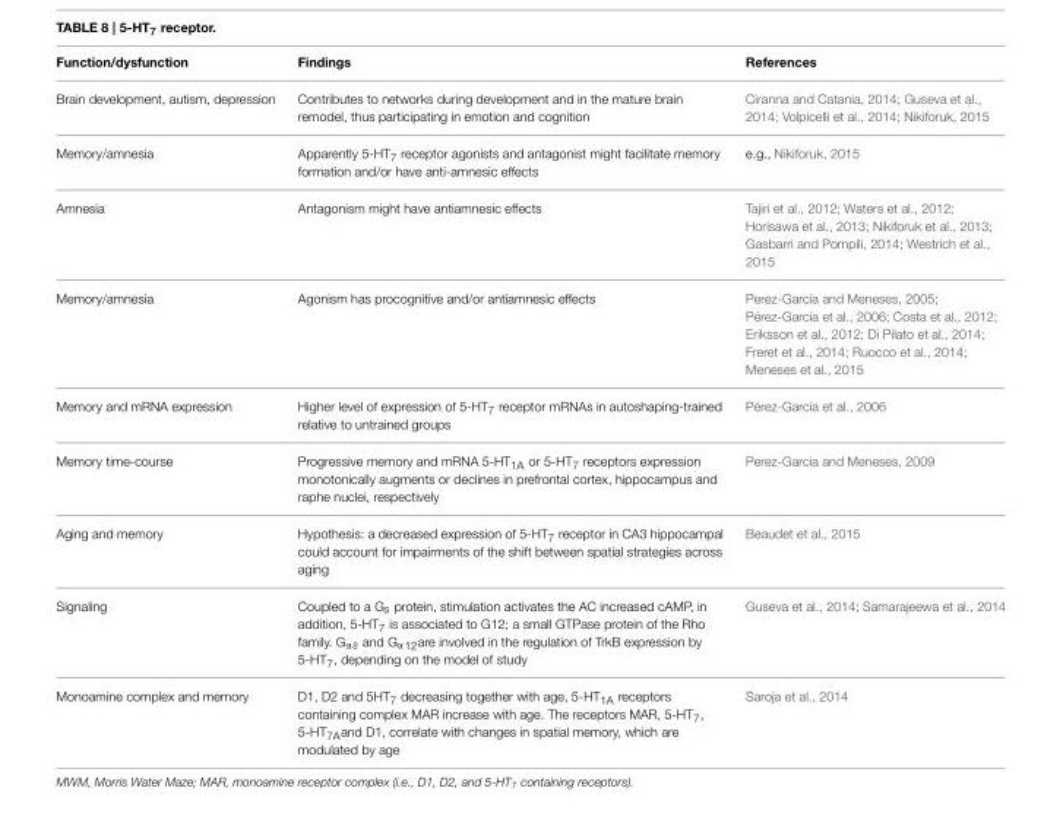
<table><thead><tr><td>Function/dysfunction</td><td>Findings</td><td>References</td></tr></thead><tbody><tr><td>Brain development, autism, depression</td><td>Contributes to networks during development and in the mature brain remodel, thus participating in emotion and cognition</td><td>Ciranna and Catania, 2014; Guseva et al., 2014; Volpicelli et al., 2014; Nikiforuk, 2015</td></tr><tr><td>Memory/amnesia</td><td>Apparently 5-HT<sub>7</sub> receptor agonists and antagonist might facilitate memory formation and/or have anti-amnesic effects</td><td>e.g., Nikiforuk, 2015</td></tr><tr><td>Amnesia</td><td>Antagonism might have antiamnesic effects</td><td>Tajiri et al., 2012; Waters et al., 2012; Horisawa et al., 2013; Nikiforuk et al., 2013; Gasbarri and Pompili, 2014; Westrich et al., 2015</td></tr><tr><td>Memory/amnesia</td><td>Agonism has procognitive and/or antiamnesic effects</td><td>Perez-García and Meneses, 2005; Pérez-García et al., 2006; Costa et al., 2012; Eriksson et al., 2012; Di Pilato et al., 2014; Freret et al., 2014; Ruocco et al., 2014; Meneses et al., 2015</td></tr><tr><td>Memory and mRNA expression</td><td>Higher level of expression of 5-HT<sub>7</sub> receptor mRNAs in autoshaping-trained relative to untrained groups</td><td>Pérez-García et al., 2006</td></tr><tr><td>Memory time-course</td><td>Progressive memory and mRNA 5-HT<sub>1A</sub> or 5-HT<sub>7</sub> receptors expression monotonically augments or declines in prefrontal cortex, hippocampus and raphe nuclei, respectively</td><td>Perez-Garcia and Meneses, 2009</td></tr><tr><td>Aging and memory</td><td>Hypothesis: a decreased expression of 5-HT<sub>7</sub> receptor in CA3 hippocampal could account for impairments of the shift between spatial strategies across aging</td><td>Beaudet et al., 2015</td></tr><tr><td>Signaling</td><td>Coupled to a G<sub>s</sub> protein, stimulation activates the AC increased cAMP, in addition, 5-HT<sub>7</sub> is associated to G12; a small GTPase protein of the Rho family. G<sub>αs</sub> and G<sub>α12</sub>are involved in the regulation of TrkB expression by 5-HT<sub>7</sub>, depending on the model of study</td><td>Guseva et al., 2014; Samarajeewa et al., 2014</td></tr><tr><td>Monoamine complex and memory</td><td>D1, D2 and 5HT<sub>7</sub> decreasing together with age, 5-HT<sub>1A</sub> receptors containing complex MAR increase with age. The receptors MAR, 5-HT<sub>7</sub>, 5-HT<sub>7A</sub>and D1, correlate with changes in spatial memory, which are modulated by age</td><td>Saroja et al., 2014</td></tr></tbody></table>